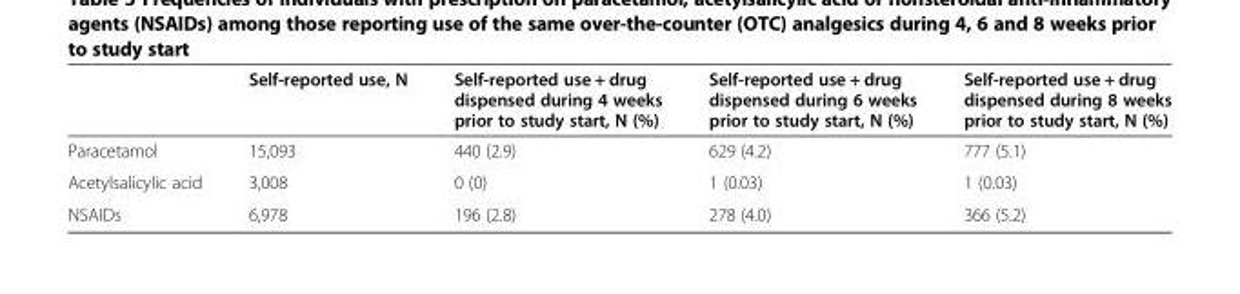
<table><thead><tr><td></td><td>Self-reported use, N</td><td>Self-reported use + drug dispensed during 4 weeks prior to study start, N (%)</td><td>Self-reported use + drug dispensed during 6 weeks prior to study start, N (%)</td><td>Self-reported use + drug dispensed during 8 weeks prior to study start, N (%)</td></tr></thead><tbody><tr><td>Paracetamol</td><td>15,093</td><td>440 (2.9)</td><td>629 (4.2)</td><td>777 (5.1)</td></tr><tr><td>Acetylsalicylic acid</td><td>3,008</td><td>0 (0)</td><td>1 (0.03)</td><td>1 (0.03)</td></tr><tr><td>NSAIDs</td><td>6,978</td><td>196 (2.8)</td><td>278 (4.0)</td><td>366 (5.2)</td></tr></tbody></table>